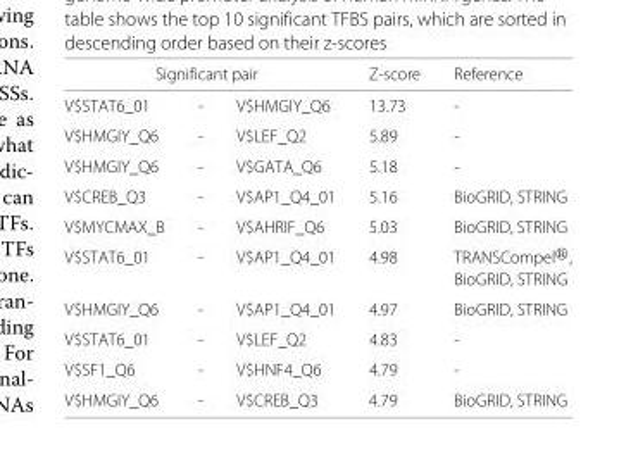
<table><thead><tr><td colspan="3">Significant pair</td><td rowspan="2">Z-score 13.73</td><td rowspan="2">Reference -</td></tr><tr><td>V$STAT6_01</td><td>-</td><td>V$HMGIY_Q6</td></tr></thead><tbody><tr><td>V$HMGIY_Q6</td><td>-</td><td>V$LEF_Q2</td><td>5.89</td><td>-</td></tr><tr><td>V$HMGIY_Q6</td><td>-</td><td>V$GATA_Q6</td><td>5.18</td><td>-</td></tr><tr><td>V$CREB_Q3</td><td>-</td><td>V$AP1_Q4_01</td><td>5.16</td><td>BioGRID, STRING</td></tr><tr><td>V$MYCMAX_B</td><td>-</td><td>V$AHRIF_Q6</td><td>5.03</td><td>BioGRID, STRING</td></tr><tr><td rowspan="2">V$STAT6_01</td><td>-</td><td>V$AP1_Q4_01</td><td>4.98</td><td>TRANSCompel®,</td></tr><tr><td></td><td></td><td></td><td>BioGRID, STRING</td></tr><tr><td>V$HMGIY_Q6</td><td>-</td><td>V$AP1_Q4_01</td><td>4.97</td><td>BioGRID, STRING</td></tr><tr><td>V$STAT6_01</td><td>-</td><td>V$LEF_Q2</td><td>4.83</td><td>-</td></tr><tr><td>V$SF1_Q6</td><td>-</td><td>V$HNF4_Q6</td><td>4.79</td><td>-</td></tr><tr><td>V$HMGIY_Q6</td><td>-</td><td>V$CREB_Q3</td><td>4.79</td><td>BioGRID, STRING</td></tr></tbody></table>